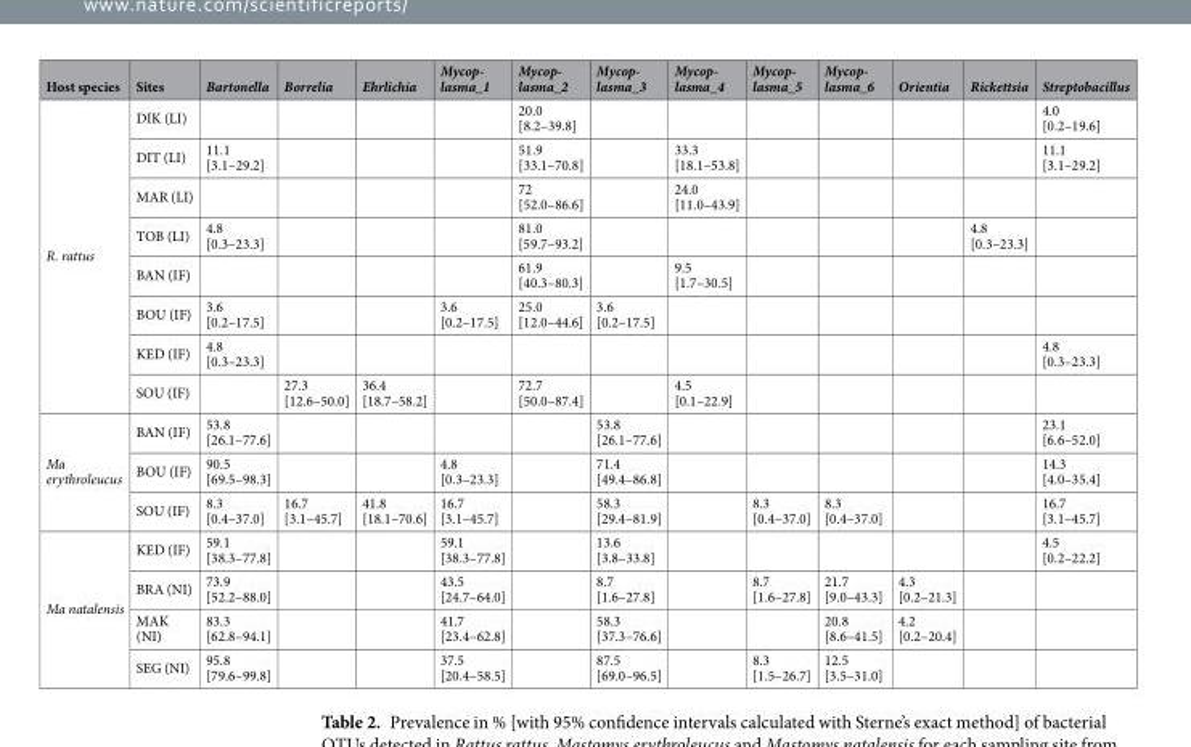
<table><thead><tr><td>Host species</td><td>Sites</td><td>Bartonella</td><td>Borrelia</td><td>Ehrlichia</td><td>Mycop- lasma_1</td><td>Mycop- lasma_2</td><td>Mycop- lasma_3</td><td>Mycop- lasma_4</td><td>Mycop- lasma_5</td><td>Mycop- lasma_6</td><td>Orientia</td><td>Rickettsia</td><td>Streptobacillus</td></tr></thead><tbody><tr><td rowspan="8">R. rattus</td><td>DIK (LI)</td><td></td><td></td><td></td><td></td><td>20.0 [8.2–39.8]</td><td></td><td></td><td></td><td></td><td></td><td></td><td>4.0 [0.2–19.6]</td></tr><tr><td>DIT (LI)</td><td>11.1 [3.1–29.2]</td><td></td><td></td><td></td><td>51.9 [33.1–70.8]</td><td></td><td>33.3 [18.1–53.8]</td><td></td><td></td><td></td><td></td><td>11.1 [3.1–29.2]</td></tr><tr><td>MAR (LI)</td><td></td><td></td><td></td><td></td><td>72 [52.0–86.6]</td><td></td><td>24.0 [11.0–43.9]</td><td></td><td></td><td></td><td></td><td></td></tr><tr><td>TOB (LI)</td><td>4.8 [0.3–23.3]</td><td></td><td></td><td></td><td>81.0 [59.7–93.2]</td><td></td><td></td><td></td><td></td><td></td><td>4.8 [0.3–23.3]</td><td></td></tr><tr><td>BAN (IF)</td><td></td><td></td><td></td><td></td><td>61.9 [40.3–80.3]</td><td></td><td>9.5 [1.7–30.5]</td><td></td><td></td><td></td><td></td><td></td></tr><tr><td>BOU (IF)</td><td>3.6 [0.2–17.5]</td><td></td><td></td><td>3.6 [0.2–17.5]</td><td>25.0 [12.0–44.6]</td><td>3.6 [0.2–17.5]</td><td></td><td></td><td></td><td></td><td></td><td></td></tr><tr><td>KED (IF)</td><td>4.8 [0.3–23.3]</td><td></td><td></td><td></td><td></td><td></td><td></td><td></td><td></td><td></td><td></td><td>4.8 [0.3–23.3]</td></tr><tr><td>SOU (IF)</td><td></td><td>27.3 [12.6–50.0]</td><td>36.4 [18.7–58.2]</td><td></td><td>72.7 [50.0–87.4]</td><td></td><td>4.5 [0.1–22.9]</td><td></td><td></td><td></td><td></td><td></td></tr><tr><td rowspan="3">Ma erythroleucus</td><td>BAN (IF)</td><td>53.8 [26.1–77.6]</td><td></td><td></td><td></td><td></td><td>53.8 [26.1–77.6]</td><td></td><td></td><td></td><td></td><td></td><td>23.1 [6.6–52.0]</td></tr><tr><td>BOU (IF)</td><td>90.5 [69.5–98.3]</td><td></td><td></td><td>4.8 [0.3–23.3]</td><td></td><td>71.4 [49.4–86.8]</td><td></td><td></td><td></td><td></td><td></td><td>14.3 [4.0–35.4]</td></tr><tr><td>SOU (IF)</td><td>8.3 [0.4–37.0]</td><td>16.7 [3.1–45.7]</td><td>41.8 [18.1–70.6]</td><td>16.7 [3.1–45.7]</td><td></td><td>58.3 [29.4–81.9]</td><td></td><td>8.3 [0.4–37.0]</td><td>8.3 [0.4–37.0]</td><td></td><td></td><td>16.7 [3.1–45.7]</td></tr><tr><td rowspan="4">Ma natalensis</td><td>KED (IF)</td><td>59.1 [38.3–77.8]</td><td></td><td></td><td>59.1 [38.3–77.8]</td><td></td><td>13.6 [3.8–33.8]</td><td></td><td></td><td></td><td></td><td></td><td>4.5 [0.2–22.2]</td></tr><tr><td>BRA (NI)</td><td>73.9 [52.2–88.0]</td><td></td><td></td><td>43.5 [24.7–64.0]</td><td></td><td>8.7 [1.6–27.8]</td><td></td><td>8.7 [1.6–27.8]</td><td>21.7 [9.0–43.3]</td><td>4.3 [0.2–21.3]</td><td></td><td></td></tr><tr><td>MAK (NI)</td><td>83.3 [62.8–94.1]</td><td></td><td></td><td>41.7 [23.4–62.8]</td><td></td><td>58.3 [37.3–76.6]</td><td></td><td></td><td>20.8 [8.6–41.5]</td><td>4.2 [0.2–20.4]</td><td></td><td></td></tr><tr><td>SEG (NI)</td><td>95.8 [79.6–99.8]</td><td></td><td></td><td>37.5 [20.4–58.5]</td><td></td><td>87.5 [69.0–96.5]</td><td></td><td>8.3 [1.5–26.7]</td><td>12.5 [3.5–31.0]</td><td></td><td></td><td></td></tr></tbody></table>